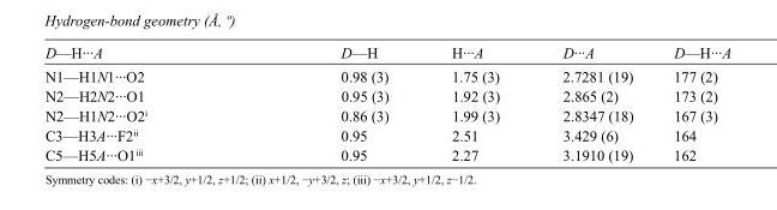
<table><tbody><tr><td>D—H···A</td><td>D—H</td><td>H···A</td><td>D···A</td><td>D—H···A</td></tr><tr><td>N1—H1N1···O2</td><td>0.98 (3)</td><td>1.75 (3)</td><td>2.7281 (19)</td><td>177 (2)</td></tr><tr><td>N2—H2N2···O1</td><td>0.95 (3)</td><td>1.92 (3)</td><td>2.865 (2)</td><td>173 (2)</td></tr><tr><td>N2—H1N2···O2<sup>i</sup></td><td>0.86 (3)</td><td>1.99 (3)</td><td>2.8347 (18)</td><td>167 (3)</td></tr><tr><td>C3—H3A···F2<sup>ii</sup></td><td>0.95</td><td>2.51</td><td>3.429 (6)</td><td>164</td></tr><tr><td>C5—H5A···O1<sup>iii</sup></td><td>0.95</td><td>2.27</td><td>3.1910 (19)</td><td>162</td></tr></tbody></table>